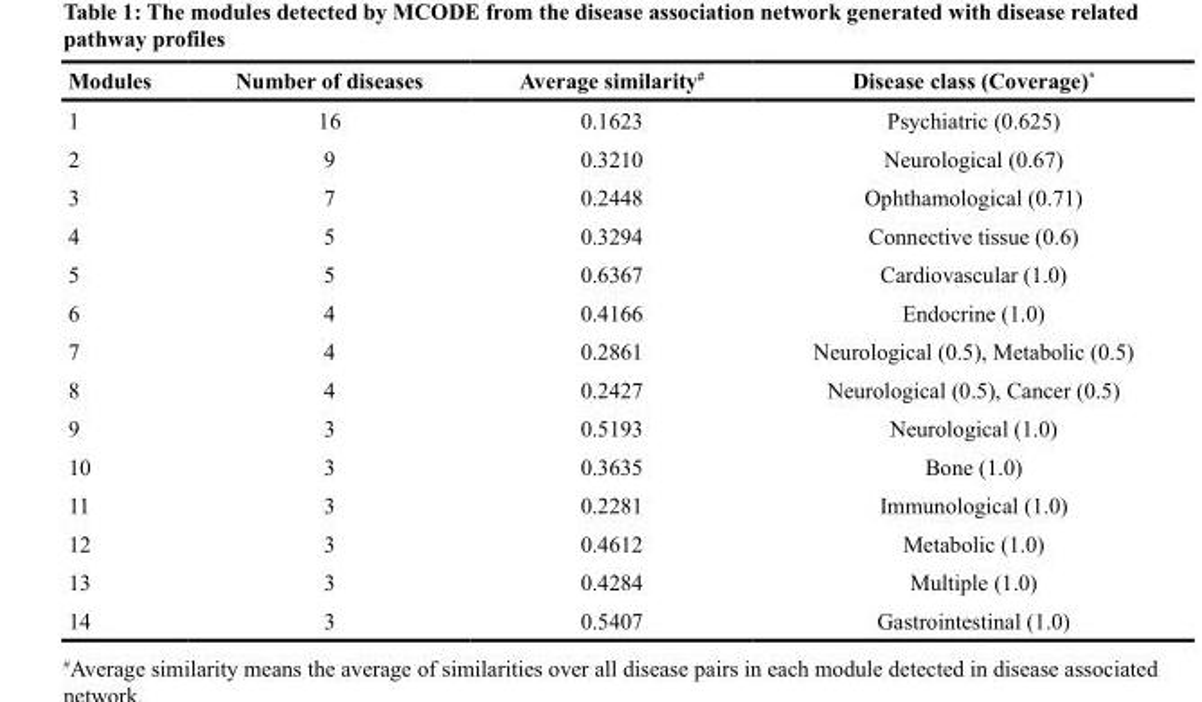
<table><thead><tr><td>Modules</td><td>Number of diseases</td><td>Average similarity<sup>#</sup></td><td>Disease class (Coverage)*</td></tr></thead><tbody><tr><td>1</td><td>16</td><td>0.1623</td><td>Psychiatric (0.625)</td></tr><tr><td>2</td><td>9</td><td>0.3210</td><td>Neurological (0.67)</td></tr><tr><td>3</td><td>7</td><td>0.2448</td><td>Ophthamological (0.71)</td></tr><tr><td>4</td><td>5</td><td>0.3294</td><td>Connective tissue (0.6)</td></tr><tr><td>5</td><td>5</td><td>0.6367</td><td>Cardiovascular (1.0)</td></tr><tr><td>6</td><td>4</td><td>0.4166</td><td>Endocrine (1.0)</td></tr><tr><td>7</td><td>4</td><td>0.2861</td><td>Neurological (0.5), Metabolic (0.5)</td></tr><tr><td>8</td><td>4</td><td>0.2427</td><td>Neurological (0.5), Cancer (0.5)</td></tr><tr><td>9</td><td>3</td><td>0.5193</td><td>Neurological (1.0)</td></tr><tr><td>10</td><td>3</td><td>0.3635</td><td>Bone (1.0)</td></tr><tr><td>11</td><td>3</td><td>0.2281</td><td>Immunological (1.0)</td></tr><tr><td>12</td><td>3</td><td>0.4612</td><td>Metabolic (1.0)</td></tr><tr><td>13</td><td>3</td><td>0.4284</td><td>Multiple (1.0)</td></tr><tr><td>14</td><td>3</td><td>0.5407</td><td>Gastrointestinal (1.0)</td></tr></tbody></table>